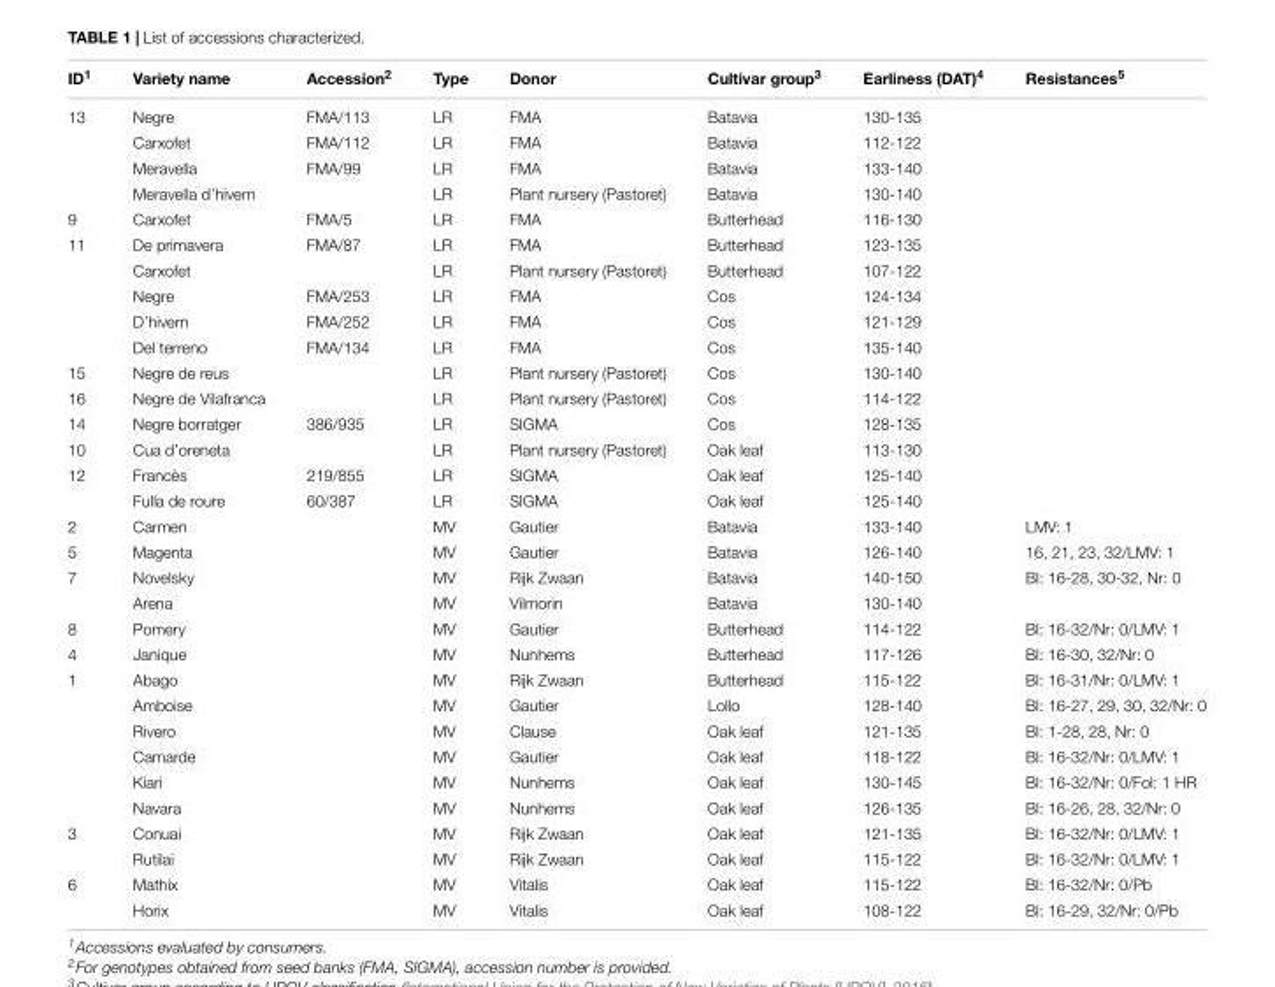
<table><thead><tr><td>ID<sup>1</sup></td><td>Variety name</td><td>Accession<sup>2</sup></td><td>Type</td><td>Donor</td><td>Cultivar group<sup>3</sup></td><td>Earliness (DAT)<sup>4</sup></td><td>Resistances<sup>5</sup></td></tr></thead><tbody><tr><td rowspan="4">13</td><td>Negre</td><td>FMA/113</td><td>LR</td><td>FMA</td><td>Batavia</td><td>130-135</td><td></td></tr><tr><td>Carxofet</td><td>FMA/112</td><td>LR</td><td>FMA</td><td>Batavia</td><td>112-122</td><td></td></tr><tr><td>Meravella</td><td>FMA/99</td><td>LR</td><td>FMA</td><td>Batavia</td><td>133-140</td><td></td></tr><tr><td>Meravella d’hivern</td><td></td><td>LR</td><td>Plant nursery (Pastoret)</td><td>Batavia</td><td>130-140</td><td></td></tr><tr><td>9</td><td>Carxofet</td><td>FMA/5</td><td>LR</td><td>FMA</td><td>Butterhead</td><td>116-130</td><td></td></tr><tr><td rowspan="5">11</td><td>De primavera</td><td>FMA/87</td><td>LR</td><td>FMA</td><td>Butterhead</td><td>123-135</td><td></td></tr><tr><td>Carxofet</td><td></td><td>LR</td><td>Plant nursery (Pastoret)</td><td>Butterhead</td><td>107-122</td><td></td></tr><tr><td>Negre</td><td>FMA/253</td><td>LR</td><td>FMA</td><td>Cos</td><td>124-134</td><td></td></tr><tr><td>D’hivern</td><td>FMA/252</td><td>LR</td><td>FMA</td><td>Cos</td><td>121-129</td><td></td></tr><tr><td>Del terreno</td><td>FMA/134</td><td>LR</td><td>FMA</td><td>Cos</td><td>135-140</td><td></td></tr><tr><td>15</td><td>Negre de reus</td><td></td><td>LR</td><td>Plant nursery (Pastoret)</td><td>Cos</td><td>130-140</td><td></td></tr><tr><td>16</td><td>Negre de Vilafranca</td><td></td><td>LR</td><td>Plant nursery (Pastoret)</td><td>Cos</td><td>114-122</td><td></td></tr><tr><td>14</td><td>Negre borratger</td><td>386/935</td><td>LR</td><td>SIGMA</td><td>Cos</td><td>128-135</td><td></td></tr><tr><td>10</td><td>Cua d’oreneta</td><td></td><td>LR</td><td>Plant nursery (Pastoret)</td><td>Oak leaf</td><td>113-130</td><td></td></tr><tr><td rowspan="2">12</td><td>Francès</td><td>219/855</td><td>LR</td><td>SIGMA</td><td>Oak leaf</td><td>125-140</td><td></td></tr><tr><td>Fulla de roure</td><td>60/387</td><td>LR</td><td>SIGMA</td><td>Oak leaf</td><td>125-140</td><td></td></tr><tr><td>2</td><td>Carmen</td><td></td><td>MV</td><td>Gautier</td><td>Batavia</td><td>133-140</td><td>LMV: 1</td></tr><tr><td>5</td><td>Magenta</td><td></td><td>MV</td><td>Gautier</td><td>Batavia</td><td>126-140</td><td>16, 21, 23, 32/LMV: 1</td></tr><tr><td rowspan="2">7</td><td>Novelsky</td><td></td><td>MV</td><td>Rijk Zwaan</td><td>Batavia</td><td>140-150</td><td>Bl: 16-28, 30-32, Nr: 0</td></tr><tr><td>Arena</td><td></td><td>MV</td><td>Vilmorin</td><td>Batavia</td><td>130-140</td><td></td></tr><tr><td>8</td><td>Pomery</td><td></td><td>MV</td><td>Gautier</td><td>Butterhead</td><td>114-122</td><td>Bl: 16-32/Nr: 0/LMV: 1</td></tr><tr><td>4</td><td>Janique</td><td></td><td>MV</td><td>Nunhems</td><td>Butterhead</td><td>117-126</td><td>Bl: 16-30, 32/Nr: 0</td></tr><tr><td rowspan="6">1</td><td>Abago</td><td></td><td>MV</td><td>Rijk Zwaan</td><td>Butterhead</td><td>115-122</td><td>Bl: 16-31/Nr: 0/LMV: 1</td></tr><tr><td>Amboise</td><td></td><td>MV</td><td>Gautier</td><td>Lollo</td><td>128-140</td><td>Bl: 16-27, 29, 30, 32/Nr: 0</td></tr><tr><td>Rivero</td><td></td><td>MV</td><td>Clause</td><td>Oak leaf</td><td>121-135</td><td>Bl: 1-28, 28, Nr: 0</td></tr><tr><td>Camarde</td><td></td><td>MV</td><td>Gautier</td><td>Oak leaf</td><td>118-122</td><td>Bl: 16-32/Nr: 0/LMV: 1</td></tr><tr><td>Kiari</td><td></td><td>MV</td><td>Nunhems</td><td>Oak leaf</td><td>130-145</td><td>Bl: 16-32/Nr: 0/Fol: 1 HR</td></tr><tr><td>Navara</td><td></td><td>MV</td><td>Nunhems</td><td>Oak leaf</td><td>126-135</td><td>Bl: 16-26, 28, 32/Nr: 0</td></tr><tr><td rowspan="2">3</td><td>Conuai</td><td></td><td>MV</td><td>Rijk Zwaan</td><td>Oak leaf</td><td>121-135</td><td>Bl: 16-32/Nr: 0/LMV: 1</td></tr><tr><td>Rutilai</td><td></td><td>MV</td><td>Rijk Zwaan</td><td>Oak leaf</td><td>115-122</td><td>Bl: 16-32/Nr: 0/LMV: 1</td></tr><tr><td rowspan="2">6</td><td>Mathix</td><td></td><td>MV</td><td>Vitalis</td><td>Oak leaf</td><td>115-122</td><td>Bl: 16-32/Nr: 0/Pb</td></tr><tr><td>Horix</td><td></td><td>MV</td><td>Vitalis</td><td>Oak leaf</td><td>108-122</td><td>Bl: 16-29, 32/Nr: 0/Pb</td></tr></tbody></table>